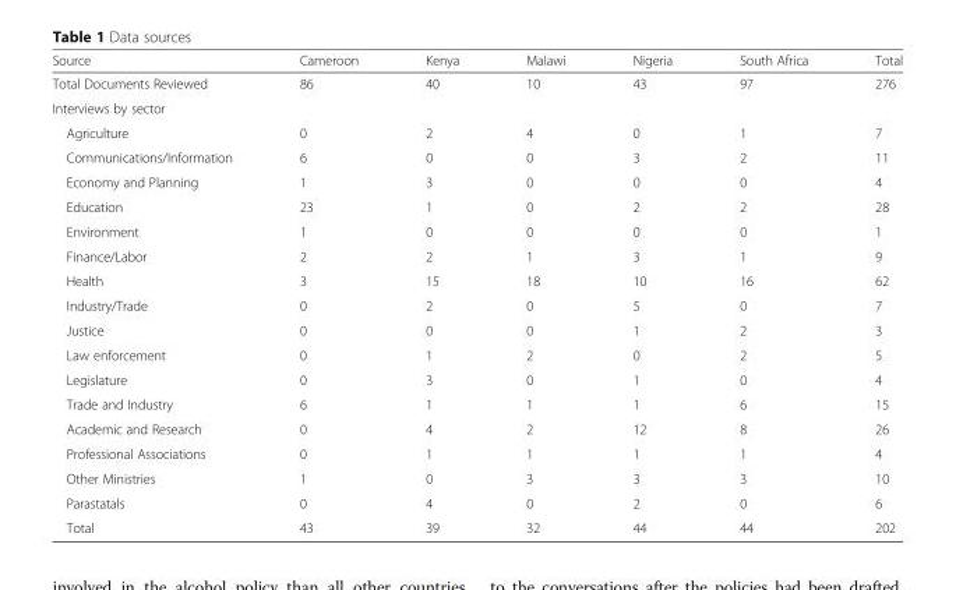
<table><thead><tr><td>Source</td><td>Cameroon</td><td>Kenya</td><td>Malawi</td><td>Nigeria</td><td>South Africa</td><td>Total</td></tr></thead><tbody><tr><td>Total Documents Reviewed</td><td>86</td><td>40</td><td>10</td><td>43</td><td>97</td><td>276</td></tr><tr><td colspan="7">Interviews by sector</td></tr><tr><td>Agriculture</td><td>0</td><td>2</td><td>4</td><td>0</td><td>1</td><td>7</td></tr><tr><td>Communications/Information</td><td>6</td><td>0</td><td>0</td><td>3</td><td>2</td><td>11</td></tr><tr><td>Economy and Planning</td><td>1</td><td>3</td><td>0</td><td>0</td><td>0</td><td>4</td></tr><tr><td>Education</td><td>23</td><td>1</td><td>0</td><td>2</td><td>2</td><td>28</td></tr><tr><td>Environment</td><td>1</td><td>0</td><td>0</td><td>0</td><td>0</td><td>1</td></tr><tr><td>Finance/Labor</td><td>2</td><td>2</td><td>1</td><td>3</td><td>1</td><td>9</td></tr><tr><td>Health</td><td>3</td><td>15</td><td>18</td><td>10</td><td>16</td><td>62</td></tr><tr><td>Industry/Trade</td><td>0</td><td>2</td><td>0</td><td>5</td><td>0</td><td>7</td></tr><tr><td>Justice</td><td>0</td><td>0</td><td>0</td><td>1</td><td>2</td><td>3</td></tr><tr><td>Law enforcement</td><td>0</td><td>1</td><td>2</td><td>0</td><td>2</td><td>5</td></tr><tr><td>Legislature</td><td>0</td><td>3</td><td>0</td><td>1</td><td>0</td><td>4</td></tr><tr><td>Trade and Industry</td><td>6</td><td>1</td><td>1</td><td>1</td><td>6</td><td>15</td></tr><tr><td>Academic and Research</td><td>0</td><td>4</td><td>2</td><td>12</td><td>8</td><td>26</td></tr><tr><td>Professional Associations</td><td>0</td><td>1</td><td>1</td><td>1</td><td>1</td><td>4</td></tr><tr><td>Other Ministries</td><td>1</td><td>0</td><td>3</td><td>3</td><td>3</td><td>10</td></tr><tr><td>Parastatals</td><td>0</td><td>4</td><td>0</td><td>2</td><td>0</td><td>6</td></tr><tr><td>Total</td><td>43</td><td>39</td><td>32</td><td>44</td><td>44</td><td>202</td></tr></tbody></table>